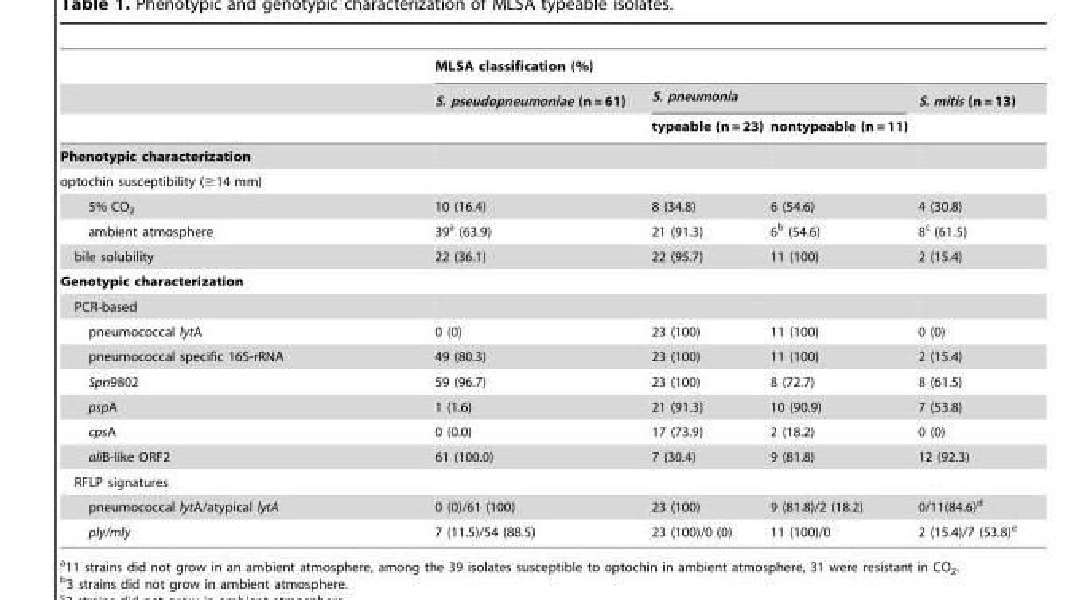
<table><thead><tr><td rowspan="3"></td><td colspan="4">MLSA classification (%)</td></tr><tr><td rowspan="2">S. pseudopneumoniae (n = 61)</td><td colspan="2">S. pneumonia</td><td rowspan="2">S. mitis (n = 13)</td></tr><tr><td>typeable (n = 23)</td><td>nontypeable (n = 11)</td></tr></thead><tbody><tr><td colspan="5">Phenotypic characterization</td></tr><tr><td colspan="5">optochin susceptibility (≥14 mm)</td></tr><tr><td>5% CO<sub>2</sub></td><td>10 (16.4)</td><td>8 (34.8)</td><td>6 (54.6)</td><td>4 (30.8)</td></tr><tr><td>ambient atmosphere</td><td>39<sup>a</sup> (63.9)</td><td>21 (91.3)</td><td>6<sup>b</sup> (54.6)</td><td>8<sup>c</sup> (61.5)</td></tr><tr><td>bile solubility</td><td>22 (36.1)</td><td>22 (95.7)</td><td>11 (100)</td><td>2 (15.4)</td></tr><tr><td colspan="5">Genotypic characterization</td></tr><tr><td colspan="5">PCR-based</td></tr><tr><td>pneumococcal lytA</td><td>0 (0)</td><td>23 (100)</td><td>11 (100)</td><td>0 (0)</td></tr><tr><td>pneumococcal specific 16S-rRNA</td><td>49 (80.3)</td><td>23 (100)</td><td>11 (100)</td><td>2 (15.4)</td></tr><tr><td>Spn9802</td><td>59 (96.7)</td><td>23 (100)</td><td>8 (72.7)</td><td>8 (61.5)</td></tr><tr><td>pspA</td><td>1 (1.6)</td><td>21 (91.3)</td><td>10 (90.9)</td><td>7 (53.8)</td></tr><tr><td>cpsA</td><td>0 (0.0)</td><td>17 (73.9)</td><td>2 (18.2)</td><td>0 (0)</td></tr><tr><td>aliB-like ORF2</td><td>61 (100.0)</td><td>7 (30.4)</td><td>9 (81.8)</td><td>12 (92.3)</td></tr><tr><td colspan="5">RFLP signatures</td></tr><tr><td>pneumococcal lytA/atypical lytA</td><td>0 (0)/61 (100)</td><td>23 (100)</td><td>9 (81.8)/2 (18.2)</td><td>0/11(84.6)<sup>d</sup></td></tr><tr><td>ply/mly</td><td>7 (11.5)/54 (88.5)</td><td>23 (100)/0 (0)</td><td>11 (100)/0</td><td>2 (15.4)/7 (53.8)<sup>e</sup></td></tr></tbody></table>